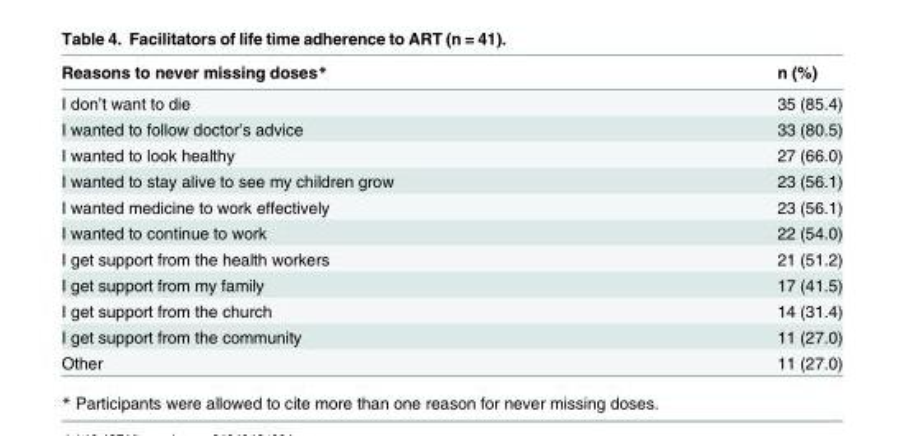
<table><thead><tr><td>Reasons to never missing doses*</td><td>n (%)</td></tr></thead><tbody><tr><td>I don’t want to die</td><td>35 (85.4)</td></tr><tr><td>I wanted to follow doctor’s advice</td><td>33 (80.5)</td></tr><tr><td>I wanted to look healthy</td><td>27 (66.0)</td></tr><tr><td>I wanted to stay alive to see my children grow</td><td>23 (56.1)</td></tr><tr><td>I wanted medicine to work effectively</td><td>23 (56.1)</td></tr><tr><td>I wanted to continue to work</td><td>22 (54.0)</td></tr><tr><td>I get support from the health workers</td><td>21 (51.2)</td></tr><tr><td>I get support from my family</td><td>17 (41.5)</td></tr><tr><td>I get support from the church</td><td>14 (31.4)</td></tr><tr><td>I get support from the community</td><td>11 (27.0)</td></tr><tr><td>Other</td><td>11 (27.0)</td></tr></tbody></table>